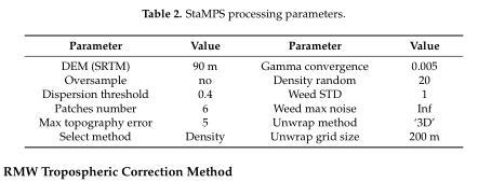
<table><thead><tr><td>Parameter</td><td>Value</td><td>Parameter</td><td>Value</td></tr></thead><tbody><tr><td>DEM (SRTM)</td><td>90 m</td><td>Gamma convergence</td><td>0.005</td></tr><tr><td>Oversample</td><td>no</td><td>Density random</td><td>20</td></tr><tr><td>Dispersion threshold</td><td>0.4</td><td>Weed STD</td><td>1</td></tr><tr><td>Patches number</td><td>6</td><td>Weed max noise</td><td>Inf</td></tr><tr><td>Max topography error</td><td>5</td><td>Unwrap method</td><td>‘3D’</td></tr><tr><td>Select method</td><td>Density</td><td>Unwrap grid size</td><td>200 m</td></tr></tbody></table>